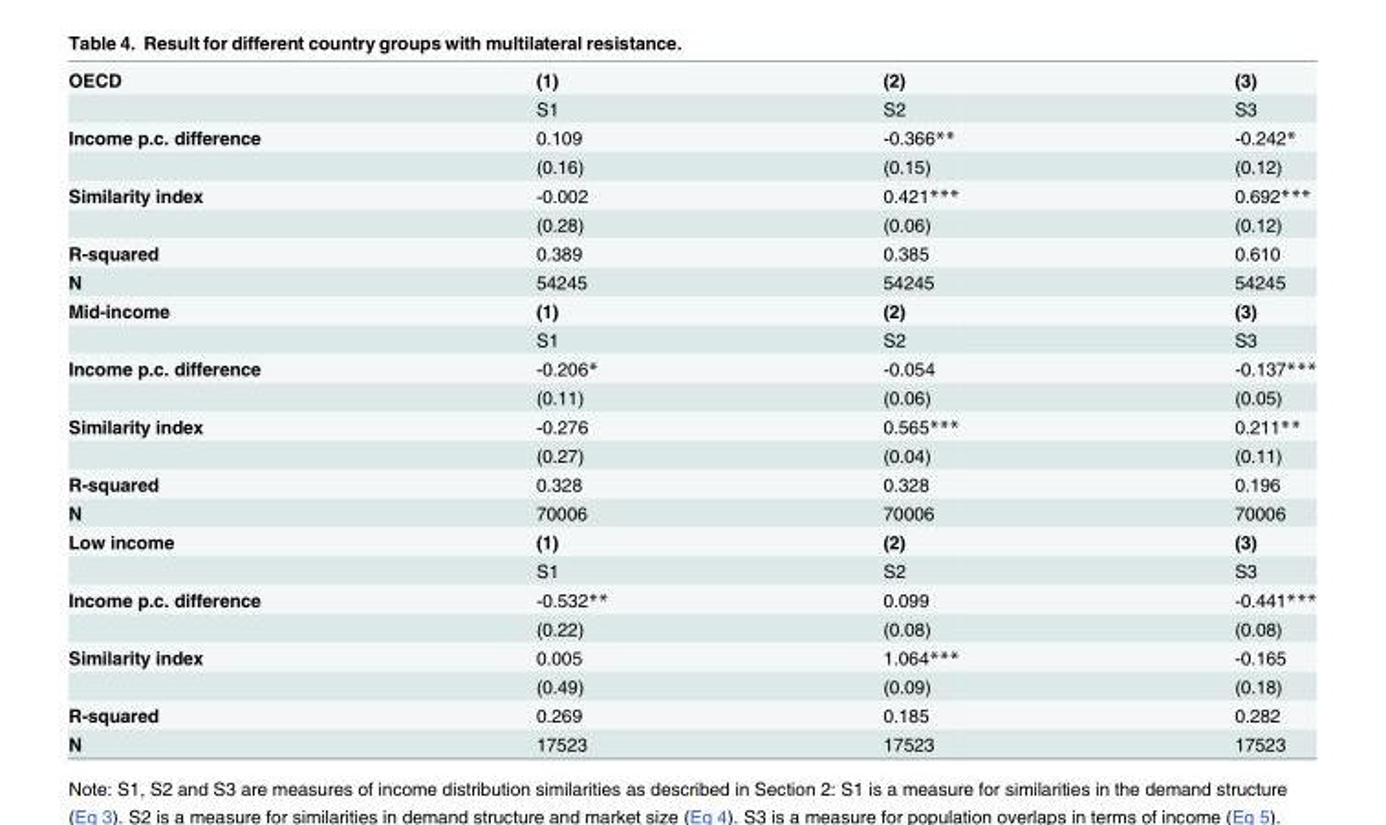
<table><tbody><tr><td rowspan="2">OECD</td><td>(1)</td><td>(2)</td><td>(3)</td></tr><tr><td>S1</td><td>S2</td><td>S3</td></tr><tr><td rowspan="2">Income p.c. difference</td><td>0.109</td><td>-0.366**</td><td>-0.242*</td></tr><tr><td>(0.16)</td><td>(0.15)</td><td>(0.12)</td></tr><tr><td rowspan="2">Similarity index</td><td>-0.002</td><td>0.421***</td><td>0.692***</td></tr><tr><td>(0.28)</td><td>(0.06)</td><td>(0.12)</td></tr><tr><td>R-squared</td><td>0.389</td><td>0.385</td><td>0.610</td></tr><tr><td>N</td><td>54245</td><td>54245</td><td>54245</td></tr><tr><td rowspan="2">Mid-income</td><td>(1)</td><td>(2)</td><td>(3)</td></tr><tr><td>S1</td><td>S2</td><td>S3</td></tr><tr><td rowspan="2">Income p.c. difference</td><td>-0.206*</td><td>-0.054</td><td>-0.137***</td></tr><tr><td>(0.11)</td><td>(0.06)</td><td>(0.05)</td></tr><tr><td rowspan="2">Similarity index</td><td>-0.276</td><td>0.565***</td><td>0.211**</td></tr><tr><td>(0.27)</td><td>(0.04)</td><td>(0.11)</td></tr><tr><td>R-squared</td><td>0.328</td><td>0.328</td><td>0.196</td></tr><tr><td>N</td><td>70006</td><td>70006</td><td>70006</td></tr><tr><td rowspan="2">Low income</td><td>(1)</td><td>(2)</td><td>(3)</td></tr><tr><td>S1</td><td>S2</td><td>S3</td></tr><tr><td rowspan="2">Income p.c. difference</td><td>-0.532**</td><td>0.099</td><td>-0.441***</td></tr><tr><td>(0.22)</td><td>(0.08)</td><td>(0.08)</td></tr><tr><td rowspan="2">Similarity index</td><td>0.005</td><td>1.064***</td><td>-0.165</td></tr><tr><td>(0.49)</td><td>(0.09)</td><td>(0.18)</td></tr><tr><td>R-squared</td><td>0.269</td><td>0.185</td><td>0.282</td></tr><tr><td>N</td><td>17523</td><td>17523</td><td>17523</td></tr></tbody></table>